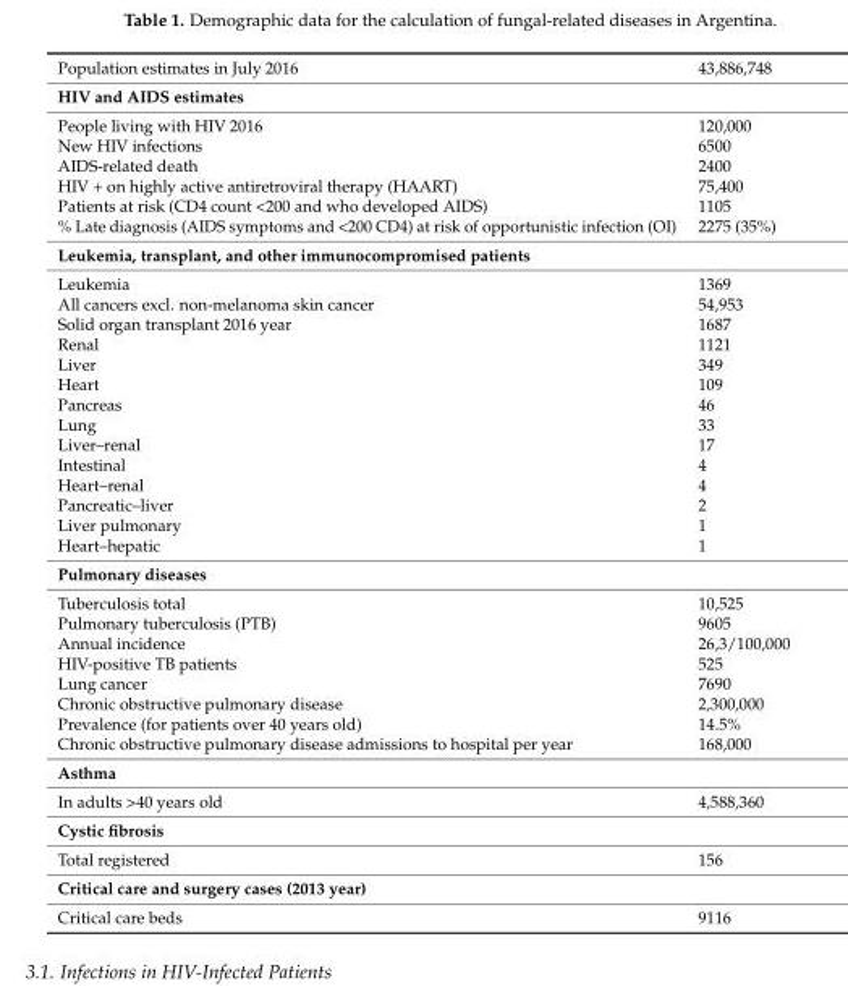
<table><tbody><tr><td>Population estimates in July 2016</td><td>43,886,748</td></tr><tr><td colspan="2">HIV and AIDS estimates</td></tr><tr><td>People living with HIV 2016</td><td>120,000</td></tr><tr><td>New HIV infections</td><td>6500</td></tr><tr><td>AIDS-related death</td><td>2400</td></tr><tr><td>HIV + on highly active antiretroviral therapy (HAART)</td><td>75,400</td></tr><tr><td>Patients at risk (CD4 count &lt;200 and who developed AIDS)</td><td>1105</td></tr><tr><td>% Late diagnosis (AIDS symptoms and &lt;200 CD4) at risk of opportunistic infection (OI)</td><td>2275 (35%)</td></tr><tr><td colspan="2">Leukemia, transplant, and other immunocompromised patients</td></tr><tr><td>Leukemia</td><td>1369</td></tr><tr><td>All cancers excl. non-melanoma skin cancer</td><td>54,953</td></tr><tr><td>Solid organ transplant 2016 year</td><td>1687</td></tr><tr><td>Renal</td><td>1121</td></tr><tr><td>Liver</td><td>349</td></tr><tr><td>Heart</td><td>109</td></tr><tr><td>Pancreas</td><td>46</td></tr><tr><td>Lung</td><td>33</td></tr><tr><td>Liver–renal</td><td>17</td></tr><tr><td>Intestinal</td><td>4</td></tr><tr><td>Heart–renal</td><td>4</td></tr><tr><td>Pancreatic–liver</td><td>2</td></tr><tr><td>Liver pulmonary</td><td>1</td></tr><tr><td>Heart–hepatic</td><td>1</td></tr><tr><td colspan="2">Pulmonary diseases</td></tr><tr><td>Tuberculosis total</td><td>10,525</td></tr><tr><td>Pulmonary tuberculosis (PTB)</td><td>9605</td></tr><tr><td>Annual incidence</td><td>26,3/100,000</td></tr><tr><td>HIV-positive TB patients</td><td>525</td></tr><tr><td>Lung cancer</td><td>7690</td></tr><tr><td>Chronic obstructive pulmonary disease</td><td>2,300,000</td></tr><tr><td>Prevalence (for patients over 40 years old)</td><td>14.5%</td></tr><tr><td>Chronic obstructive pulmonary disease admissions to hospital per year</td><td>168,000</td></tr><tr><td colspan="2">Asthma</td></tr><tr><td>In adults &gt;40 years old</td><td>4,588,360</td></tr><tr><td colspan="2">Cystic fibrosis</td></tr><tr><td>Total registered</td><td>156</td></tr><tr><td colspan="2">Critical care and surgery cases (2013 year)</td></tr><tr><td>Critical care beds</td><td>9116</td></tr></tbody></table>